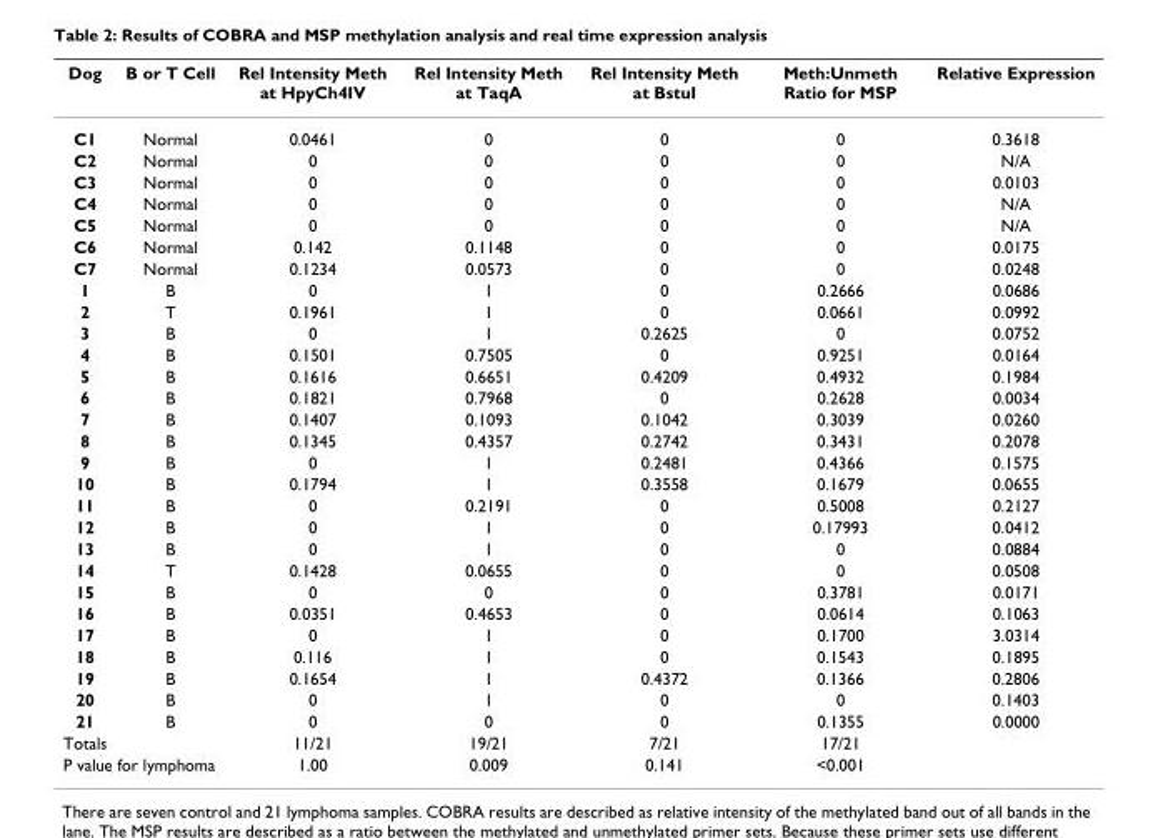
<table><thead><tr><td>Dog</td><td>B or T Cell</td><td>Rel Intensity Meth at HpyCh4IV</td><td>Rel Intensity Meth at TaqA</td><td>Rel Intensity Meth at BstuI</td><td>Meth:Unmeth Ratio for MSP</td><td>Relative Expression</td></tr></thead><tbody><tr><td>C1</td><td>Normal</td><td>0.0461</td><td>0</td><td>0</td><td>0</td><td>0.3618</td></tr><tr><td>C2</td><td>Normal</td><td>0</td><td>0</td><td>0</td><td>0</td><td>N/A</td></tr><tr><td>C3</td><td>Normal</td><td>0</td><td>0</td><td>0</td><td>0</td><td>0.0103</td></tr><tr><td>C4</td><td>Normal</td><td>0</td><td>0</td><td>0</td><td>0</td><td>N/A</td></tr><tr><td>C5</td><td>Normal</td><td>0</td><td>0</td><td>0</td><td>0</td><td>N/A</td></tr><tr><td>C6</td><td>Normal</td><td>0.142</td><td>0.1148</td><td>0</td><td>0</td><td>0.0175</td></tr><tr><td>C7</td><td>Normal</td><td>0.1234</td><td>0.0573</td><td>0</td><td>0</td><td>0.0248</td></tr><tr><td>1</td><td>B</td><td>0</td><td>1</td><td>0</td><td>0.2666</td><td>0.0686</td></tr><tr><td>2</td><td>T</td><td>0.1961</td><td>1</td><td>0</td><td>0.0661</td><td>0.0992</td></tr><tr><td>3</td><td>B</td><td>0</td><td>1</td><td>0.2625</td><td>0</td><td>0.0752</td></tr><tr><td>4</td><td>B</td><td>0.1501</td><td>0.7505</td><td>0</td><td>0.9251</td><td>0.0164</td></tr><tr><td>5</td><td>B</td><td>0.1616</td><td>0.6651</td><td>0.4209</td><td>0.4932</td><td>0.1984</td></tr><tr><td>6</td><td>B</td><td>0.1821</td><td>0.7968</td><td>0</td><td>0.2628</td><td>0.0034</td></tr><tr><td>7</td><td>B</td><td>0.1407</td><td>0.1093</td><td>0.1042</td><td>0.3039</td><td>0.0260</td></tr><tr><td>8</td><td>B</td><td>0.1345</td><td>0.4357</td><td>0.2742</td><td>0.3431</td><td>0.2078</td></tr><tr><td>9</td><td>B</td><td>0</td><td>1</td><td>0.2481</td><td>0.4366</td><td>0.1575</td></tr><tr><td>10</td><td>B</td><td>0.1794</td><td>1</td><td>0.3558</td><td>0.1679</td><td>0.0655</td></tr><tr><td>11</td><td>B</td><td>0</td><td>0.2191</td><td>0</td><td>0.5008</td><td>0.2127</td></tr><tr><td>12</td><td>B</td><td>0</td><td>1</td><td>0</td><td>0.17993</td><td>0.0412</td></tr><tr><td>13</td><td>B</td><td>0</td><td>1</td><td>0</td><td>0</td><td>0.0884</td></tr><tr><td>14</td><td>T</td><td>0.1428</td><td>0.0655</td><td>0</td><td>0</td><td>0.0508</td></tr><tr><td>15</td><td>B</td><td>0</td><td>0</td><td>0</td><td>0.3781</td><td>0.0171</td></tr><tr><td>16</td><td>B</td><td>0.0351</td><td>0.4653</td><td>0</td><td>0.0614</td><td>0.1063</td></tr><tr><td>17</td><td>B</td><td>0</td><td>1</td><td>0</td><td>0.1700</td><td>3.0314</td></tr><tr><td>18</td><td>B</td><td>0.116</td><td>1</td><td>0</td><td>0.1543</td><td>0.1895</td></tr><tr><td>19</td><td>B</td><td>0.1654</td><td>1</td><td>0.4372</td><td>0.1366</td><td>0.2806</td></tr><tr><td>20</td><td>B</td><td>0</td><td>1</td><td>0</td><td>0</td><td>0.1403</td></tr><tr><td>21</td><td>B</td><td>0</td><td>0</td><td>0</td><td>0.1355</td><td>0.0000</td></tr><tr><td>Totals</td><td></td><td>11/21</td><td>19/21</td><td>7/21</td><td>17/21</td><td></td></tr><tr><td colspan="2">P value for lymphoma</td><td>1.00</td><td>0.009</td><td>0.141</td><td>&lt;0.001</td><td></td></tr></tbody></table>